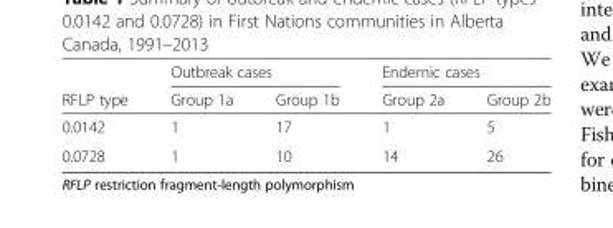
<table><thead><tr><td rowspan="2">RFLP type</td><td colspan="2">Outbreak cases</td><td colspan="2">Endemic cases</td></tr><tr><td>Group 1a</td><td>Group 1b</td><td>Group 2a</td><td>Group 2b</td></tr></thead><tbody><tr><td>0.0142</td><td>1</td><td>17</td><td>1</td><td>5</td></tr><tr><td>0.0728</td><td>1</td><td>10</td><td>14</td><td>26</td></tr></tbody></table>